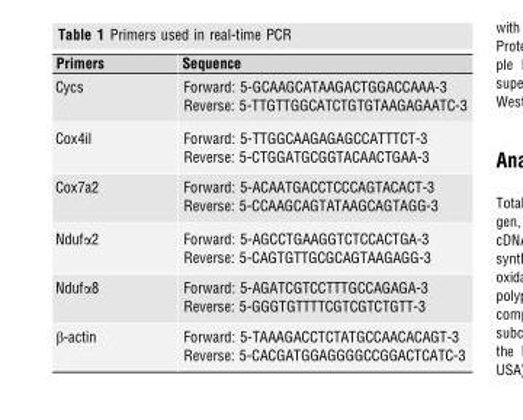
<table><thead><tr><td>Primers</td><td>Sequence</td></tr></thead><tbody><tr><td rowspan="2">Cycs</td><td>Forward: 5-GCAAGCATAAGACTGGACCAAA-3</td></tr><tr><td>Reverse: 5-TTGTTGGCATCTGTGTAAGAGAATC-3</td></tr><tr><td rowspan="2">Cox4il</td><td>Forward: 5-TTGGCAAGAGAGCCATTTCT-3</td></tr><tr><td>Reverse: 5-CTGGATGCGGTACAACTGAA-3</td></tr><tr><td rowspan="2">Cox7a2</td><td>Forward: 5-ACAATGACCTCCCAGTACACT-3</td></tr><tr><td>Reverse: 5-CCAAGCAGTATAAGCAGTAGG-3</td></tr><tr><td rowspan="2">Ndufα2</td><td>Forward: 5-AGCCTGAAGGTCTCCACTGA-3</td></tr><tr><td>Reverse: 5-CAGTGTTGCGCAGTAAGAGG-3</td></tr><tr><td rowspan="2">Ndufα8</td><td>Forward: 5-AGATCGTCCTTTGCCAGAGA-3</td></tr><tr><td>Reverse: 5-GGGTGTTTTCGTCGTCTGTT-3</td></tr><tr><td rowspan="2">β-actin</td><td>Forward: 5-TAAAGACCTCTATGCCAACACAGT-3</td></tr><tr><td>Reverse: 5-CACGATGGAGGGGCCGGACTCATC-3</td></tr></tbody></table>